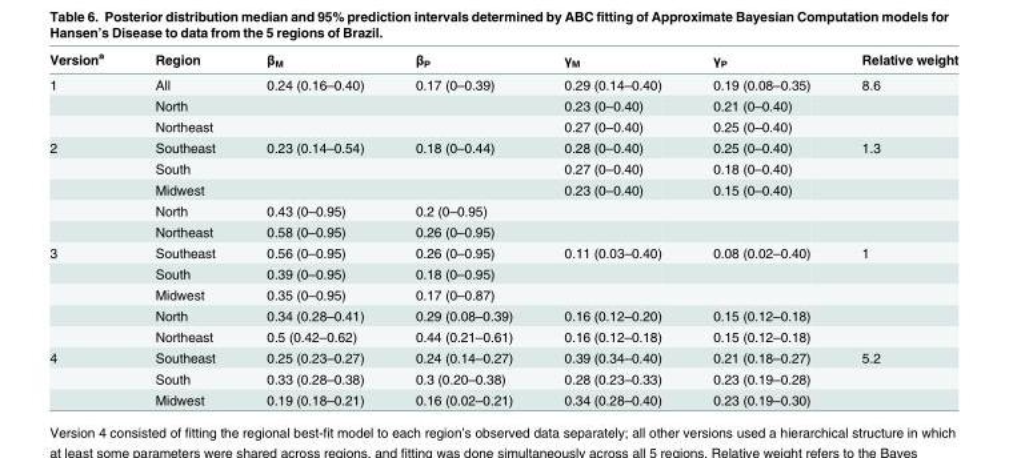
<table><thead><tr><td>Version<sup>a</sup></td><td>Region</td><td>β<sub>M</sub></td><td>β<sub>P</sub></td><td>γ<sub>M</sub></td><td>γ<sub>P</sub></td><td>Relative weight</td></tr></thead><tbody><tr><td rowspan="3">1</td><td>All</td><td>0.24 (0.16–0.40)</td><td>0.17 (0–0.39)</td><td>0.29 (0.14–0.40)</td><td>0.19 (0.08–0.35)</td><td>8.6</td></tr><tr><td>North</td><td></td><td></td><td>0.23 (0–0.40)</td><td>0.21 (0–0.40)</td><td></td></tr><tr><td>Northeast</td><td></td><td></td><td>0.27 (0–0.40)</td><td>0.25 (0–0.40)</td><td></td></tr><tr><td rowspan="5">2</td><td>Southeast</td><td>0.23 (0.14–0.54)</td><td>0.18 (0–0.44)</td><td>0.28 (0–0.40)</td><td>0.25 (0–0.40)</td><td>1.3</td></tr><tr><td>South</td><td></td><td></td><td>0.27 (0–0.40)</td><td>0.18 (0–0.40)</td><td></td></tr><tr><td>Midwest</td><td></td><td></td><td>0.23 (0–0.40)</td><td>0.15 (0–0.40)</td><td></td></tr><tr><td>North</td><td>0.43 (0–0.95)</td><td>0.2 (0–0.95)</td><td></td><td></td><td></td></tr><tr><td>Northeast</td><td>0.58 (0–0.95)</td><td>0.26 (0–0.95)</td><td></td><td></td><td></td></tr><tr><td rowspan="5">3</td><td>Southeast</td><td>0.56 (0–0.95)</td><td>0.26 (0–0.95)</td><td>0.11 (0.03–0.40)</td><td>0.08 (0.02–0.40)</td><td>1</td></tr><tr><td>South</td><td>0.39 (0–0.95)</td><td>0.18 (0–0.95)</td><td></td><td></td><td></td></tr><tr><td>Midwest</td><td>0.35 (0–0.95)</td><td>0.17 (0–0.87)</td><td></td><td></td><td></td></tr><tr><td>North</td><td>0.34 (0.28–0.41)</td><td>0.29 (0.08–0.39)</td><td>0.16 (0.12–0.20)</td><td>0.15 (0.12–0.18)</td><td></td></tr><tr><td>Northeast</td><td>0.5 (0.42–0.62)</td><td>0.44 (0.21–0.61)</td><td>0.16 (0.12–0.18)</td><td>0.15 (0.12–0.18)</td><td></td></tr><tr><td rowspan="3">4</td><td>Southeast</td><td>0.25 (0.23–0.27)</td><td>0.24 (0.14–0.27)</td><td>0.39 (0.34–0.40)</td><td>0.21 (0.18–0.27)</td><td>5.2</td></tr><tr><td>South</td><td>0.33 (0.28–0.38)</td><td>0.3 (0.20–0.38)</td><td>0.28 (0.23–0.33)</td><td>0.23 (0.19–0.28)</td><td></td></tr><tr><td>Midwest</td><td>0.19 (0.18–0.21)</td><td>0.16 (0.02–0.21)</td><td>0.34 (0.28–0.40)</td><td>0.23 (0.19–0.30)</td><td></td></tr></tbody></table>